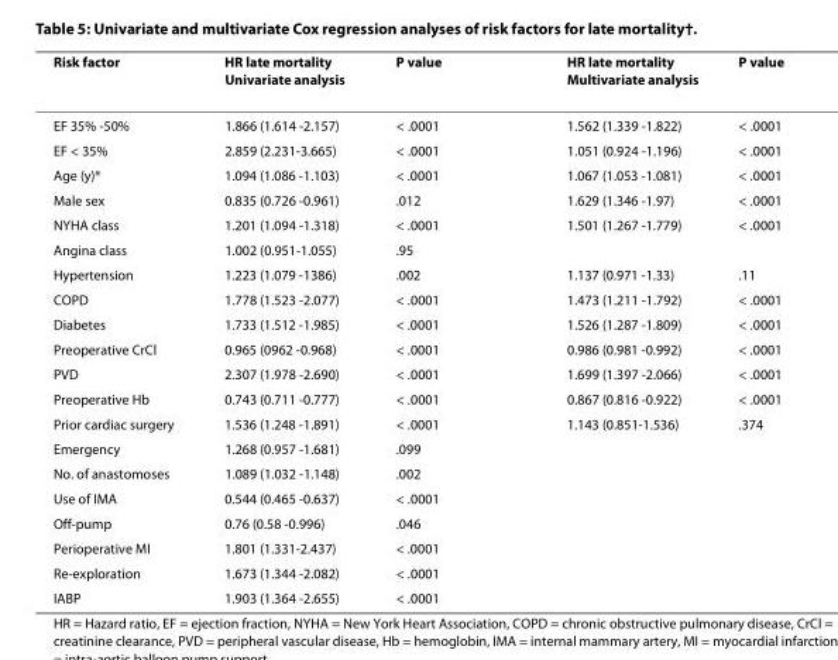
<table><thead><tr><td>Risk factor</td><td>HR late mortality Univariate analysis</td><td>P value</td><td>HR late mortality Multivariate analysis</td><td>P value</td></tr></thead><tbody><tr><td>EF 35% -50%</td><td>1.866 (1.614 -2.157)</td><td>&lt; .0001</td><td>1.562 (1.339 -1.822)</td><td>&lt; .0001</td></tr><tr><td>EF &lt; 35%</td><td>2.859 (2.231-3.665)</td><td>&lt; .0001</td><td>1.051 (0.924 -1.196)</td><td>&lt; .0001</td></tr><tr><td>Age (y)*</td><td>1.094 (1.086 -1.103)</td><td>&lt; .0001</td><td>1.067 (1.053 -1.081)</td><td>&lt; .0001</td></tr><tr><td>Male sex</td><td>0.835 (0.726 -0.961)</td><td>.012</td><td>1.629 (1.346 -1.97)</td><td>&lt; .0001</td></tr><tr><td>NYHA class</td><td>1.201 (1.094 -1.318)</td><td>&lt; .0001</td><td>1.501 (1.267 -1.779)</td><td>&lt; .0001</td></tr><tr><td>Angina class</td><td>1.002 (0.951-1.055)</td><td>.95</td><td></td><td></td></tr><tr><td>Hypertension</td><td>1.223 (1.079 -1386)</td><td>.002</td><td>1.137 (0.971 -1.33)</td><td>.11</td></tr><tr><td>COPD</td><td>1.778 (1.523 -2.077)</td><td>&lt; .0001</td><td>1.473 (1.211 -1.792)</td><td>&lt; .0001</td></tr><tr><td>Diabetes</td><td>1.733 (1.512 -1.985)</td><td>&lt; .0001</td><td>1.526 (1.287 -1.809)</td><td>&lt; .0001</td></tr><tr><td>Preoperative CrCl</td><td>0.965 (0962 -0.968)</td><td>&lt; .0001</td><td>0.986 (0.981 -0.992)</td><td>&lt; .0001</td></tr><tr><td>PVD</td><td>2.307 (1.978 -2.690)</td><td>&lt; .0001</td><td>1.699 (1.397 -2.066)</td><td>&lt; .0001</td></tr><tr><td>Preoperative Hb</td><td>0.743 (0.711 -0.777)</td><td>&lt; .0001</td><td>0.867 (0.816 -0.922)</td><td>&lt; .0001</td></tr><tr><td>Prior cardiac surgery</td><td>1.536 (1.248 -1.891)</td><td>&lt; .0001</td><td>1.143 (0.851-1.536)</td><td>.374</td></tr><tr><td>Emergency</td><td>1.268 (0.957 -1.681)</td><td>.099</td><td></td><td></td></tr><tr><td>No. of anastomoses</td><td>1.089 (1.032 -1.148)</td><td>.002</td><td></td><td></td></tr><tr><td>Use of IMA</td><td>0.544 (0.465 -0.637)</td><td>&lt; .0001</td><td></td><td></td></tr><tr><td>Off-pump</td><td>0.76 (0.58 -0.996)</td><td>.046</td><td></td><td></td></tr><tr><td>Perioperative MI</td><td>1.801 (1.331-2.437)</td><td>&lt; .0001</td><td></td><td></td></tr><tr><td>Re-exploration</td><td>1.673 (1.344 -2.082)</td><td>&lt; .0001</td><td></td><td></td></tr><tr><td>IABP</td><td>1.903 (1.364 -2.655)</td><td>&lt; .0001</td><td></td><td></td></tr></tbody></table>